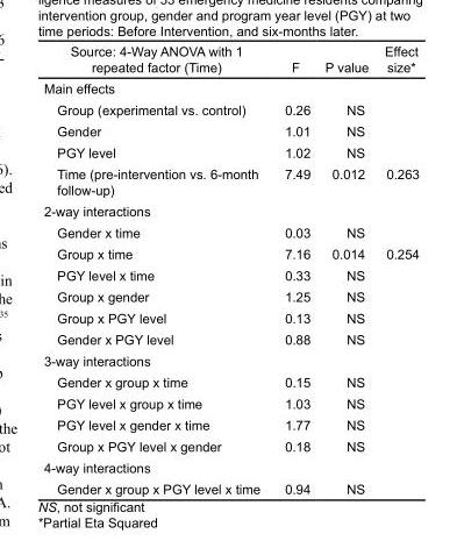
<table><thead><tr><td>Source: 4-Way ANOVA with 1 repeated factor (Time)</td><td>F</td><td>P value</td><td>Effect size*</td></tr></thead><tbody><tr><td colspan="4">Main effects</td></tr><tr><td>Group (experimental vs. control)</td><td>0.26</td><td>NS</td><td></td></tr><tr><td>Gender</td><td>1.01</td><td>NS</td><td></td></tr><tr><td>PGY level</td><td>1.02</td><td>NS</td><td></td></tr><tr><td>Time (pre-intervention vs. 6-month follow-up)</td><td>7.49</td><td>0.012</td><td>0.263</td></tr><tr><td colspan="4">2-way interactions</td></tr><tr><td>Gender x time</td><td>0.03</td><td>NS</td><td></td></tr><tr><td>Group x time</td><td>7.16</td><td>0.014</td><td>0.254</td></tr><tr><td>PGY level x time</td><td>0.33</td><td>NS</td><td></td></tr><tr><td>Group x gender</td><td>1.25</td><td>NS</td><td></td></tr><tr><td>Group x PGY level</td><td>0.13</td><td>NS</td><td></td></tr><tr><td>Gender x PGY level</td><td>0.88</td><td>NS</td><td></td></tr><tr><td colspan="4">3-way interactions</td></tr><tr><td>Gender x group x time</td><td>0.15</td><td>NS</td><td></td></tr><tr><td>PGY level x group x time</td><td>1.03</td><td>NS</td><td></td></tr><tr><td>PGY level x gender x time</td><td>1.77</td><td>NS</td><td></td></tr><tr><td>Group x PGY level x gender</td><td>0.18</td><td>NS</td><td></td></tr><tr><td colspan="4">4-way interactions</td></tr><tr><td>Gender x group x PGY level x time</td><td>0.94</td><td>NS</td><td></td></tr></tbody></table>